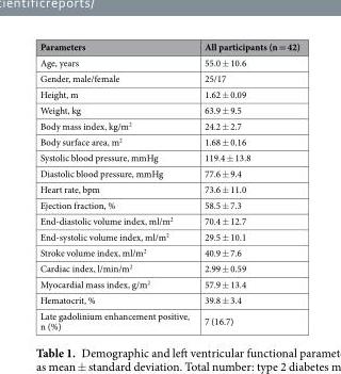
<table><thead><tr><td>Parameters</td><td>All participants (n = 42)</td></tr></thead><tbody><tr><td>Age, years</td><td>55.0 ± 10.6</td></tr><tr><td>Gender, male/female</td><td>25/17</td></tr><tr><td>Height, m</td><td>1.62 ± 0.09</td></tr><tr><td>Weight, kg</td><td>63.9 ± 9.5</td></tr><tr><td>Body mass index, kg/m<sup>2</sup></td><td>24.2 ± 2.7</td></tr><tr><td>Body surface area, m<sup>2</sup></td><td>1.68 ± 0.16</td></tr><tr><td>Systolic blood pressure, mmHg</td><td>119.4 ± 13.8</td></tr><tr><td>Diastolic blood pressure, mmHg</td><td>77.6 ± 9.4</td></tr><tr><td>Heart rate, bpm</td><td>73.6 ± 11.0</td></tr><tr><td>Ejection fraction, %</td><td>58.5 ± 7.3</td></tr><tr><td>End-diastolic volume index, ml/m<sup>2</sup></td><td>70.4 ± 12.7</td></tr><tr><td>End-systolic volume index, ml/m<sup>2</sup></td><td>29.5 ± 10.1</td></tr><tr><td>Stroke volume index, ml/m<sup>2</sup></td><td>40.9 ± 7.6</td></tr><tr><td>Cardiac index, l/min/m<sup>2</sup></td><td>2.99 ± 0.59</td></tr><tr><td>Myocardial mass index, g/m<sup>2</sup></td><td>57.9 ± 13.4</td></tr><tr><td>Hematocrit, %</td><td>39.8 ± 3.4</td></tr><tr><td>Late gadolinium enhancement positive, n (%)</td><td>7 (16.7)</td></tr></tbody></table>